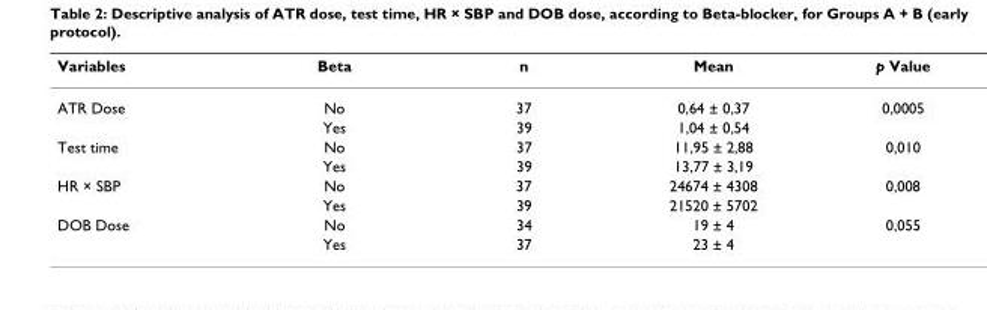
<table><thead><tr><td>Variables</td><td>Beta</td><td>n</td><td>Mean</td><td>p Value</td></tr></thead><tbody><tr><td rowspan="2">ATR Dose</td><td>No</td><td>37</td><td>0,64 ± 0,37</td><td>0,0005</td></tr><tr><td>Yes</td><td>39</td><td>1,04 ± 0,54</td><td></td></tr><tr><td rowspan="2">Test time</td><td>No</td><td>37</td><td>11,95 ± 2,88</td><td>0,010</td></tr><tr><td>Yes</td><td>39</td><td>13,77 ± 3,19</td><td></td></tr><tr><td rowspan="2">HR × SBP</td><td>No</td><td>37</td><td>24674 ± 4308</td><td>0,008</td></tr><tr><td>Yes</td><td>39</td><td>21520 ± 5702</td><td></td></tr><tr><td rowspan="2">DOB Dose</td><td>No</td><td>34</td><td>19 ± 4</td><td>0,055</td></tr><tr><td>Yes</td><td>37</td><td>23 ± 4</td><td></td></tr></tbody></table>